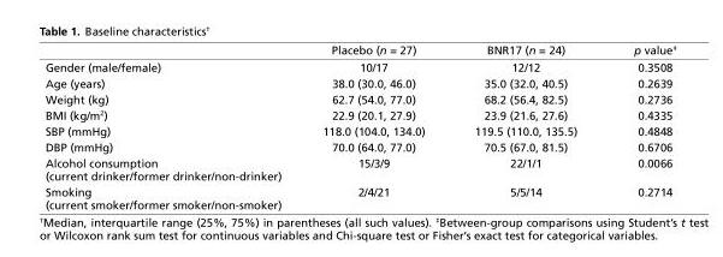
<table><thead><tr><td></td><td>Placebo (n = 27)</td><td>BNR17 (n = 24)</td><td>p value<sup>‡</sup></td></tr></thead><tbody><tr><td>Gender (male/female)</td><td>10/17</td><td>12/12</td><td>0.3508</td></tr><tr><td>Age (years)</td><td>38.0 (30.0, 46.0)</td><td>35.0 (32.0, 40.5)</td><td>0.2639</td></tr><tr><td>Weight (kg)</td><td>62.7 (54.0, 77.0)</td><td>68.2 (56.4, 82.5)</td><td>0.2736</td></tr><tr><td>BMI (kg/m<sup>2</sup>)</td><td>22.9 (20.1, 27.9)</td><td>23.9 (21.6, 27.6)</td><td>0.4335</td></tr><tr><td>SBP (mmHg)</td><td>118.0 (104.0, 134.0)</td><td>119.5 (110.0, 135.5)</td><td>0.4848</td></tr><tr><td>DBP (mmHg)</td><td>70.0 (64.0, 77.0)</td><td>70.5 (67.0, 81.5)</td><td>0.6706</td></tr><tr><td>Alcohol consumption (current drinker/former drinker/non-drinker)</td><td>15/3/9</td><td>22/1/1</td><td>0.0066</td></tr><tr><td>Smoking (current smoker/former smoker/non-smoker)</td><td>2/4/21</td><td>5/5/14</td><td>0.2714</td></tr></tbody></table>